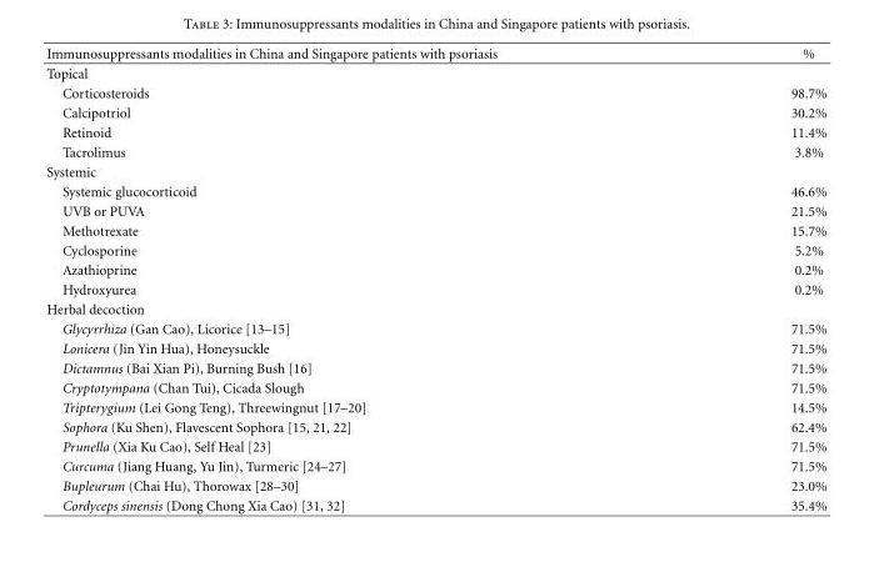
<table><thead><tr><td>Immunosuppressants modalities in China and Singapore patients with psoriasis</td><td>%</td></tr></thead><tbody><tr><td colspan="2">Topical</td></tr><tr><td>Corticosteroids</td><td>98.7%</td></tr><tr><td>Calcipotriol</td><td>30.2%</td></tr><tr><td>Retinoid</td><td>11.4%</td></tr><tr><td>Tacrolimus</td><td>3.8%</td></tr><tr><td colspan="2">Systemic</td></tr><tr><td>Systemic glucocorticoid</td><td>46.6%</td></tr><tr><td>UVB or PUVA</td><td>21.5%</td></tr><tr><td>Methotrexate</td><td>15.7%</td></tr><tr><td>Cyclosporine</td><td>5.2%</td></tr><tr><td>Azathioprine</td><td>0.2%</td></tr><tr><td>Hydroxyurea</td><td>0.2%</td></tr><tr><td colspan="2">Herbal decoction</td></tr><tr><td>Glycyrrhiza (Gan Cao), Licorice [13–15]</td><td>71.5%</td></tr><tr><td>Lonicera (Jin Yin Hua), Honeysuckle</td><td>71.5%</td></tr><tr><td>Dictamnus (Bai Xian Pi), Burning Bush [16]</td><td>71.5%</td></tr><tr><td>Cryptotympana (Chan Tui), Cicada Slough</td><td>71.5%</td></tr><tr><td>Tripterygium (Lei Gong Teng), Threewingnut [17–20]</td><td>14.5%</td></tr><tr><td>Sophora (Ku Shen), Flavescent Sophora [15, 21, 22]</td><td>62.4%</td></tr><tr><td>Prunella (Xia Ku Cao), Self Heal [23]</td><td>71.5%</td></tr><tr><td>Curcuma (Jiang Huang, Yu Jin), Turmeric [24–27]</td><td>71.5%</td></tr><tr><td>Bupleurum (Chai Hu), Thorowax [28–30]</td><td>23.0%</td></tr><tr><td>Cordyceps sinensis (Dong Chong Xia Cao) [31, 32]</td><td>35.4%</td></tr></tbody></table>